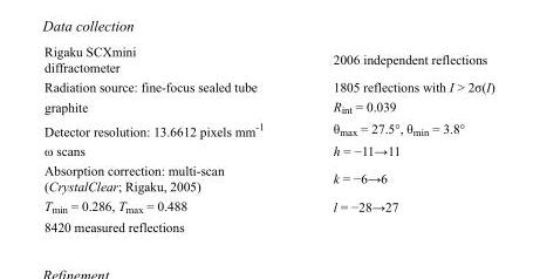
<table><tbody><tr><td>Rigaku SCXmini diffractometer</td><td>2006 independent reflections</td></tr><tr><td>Radiation source: fine-focus sealed tube</td><td>1805 reflections with I &gt; 2σ(I)</td></tr><tr><td>graphite</td><td>R<sub>int</sub> = 0.039</td></tr><tr><td>Detector resolution: 13.6612 pixels mm<sup>-1</sup></td><td>θ<sub>max</sub> = 27.5°, θ<sub>min</sub> = 3.8°</td></tr><tr><td>ω scans</td><td>h = −11→11</td></tr><tr><td>Absorption correction: multi-scan (CrystalClear; Rigaku, 2005)</td><td>k = −6→6</td></tr><tr><td>T<sub>min</sub> = 0.286, T<sub>max</sub> = 0.488</td><td>l = −28→27</td></tr><tr><td>8420 measured reflections</td><td></td></tr></tbody></table>